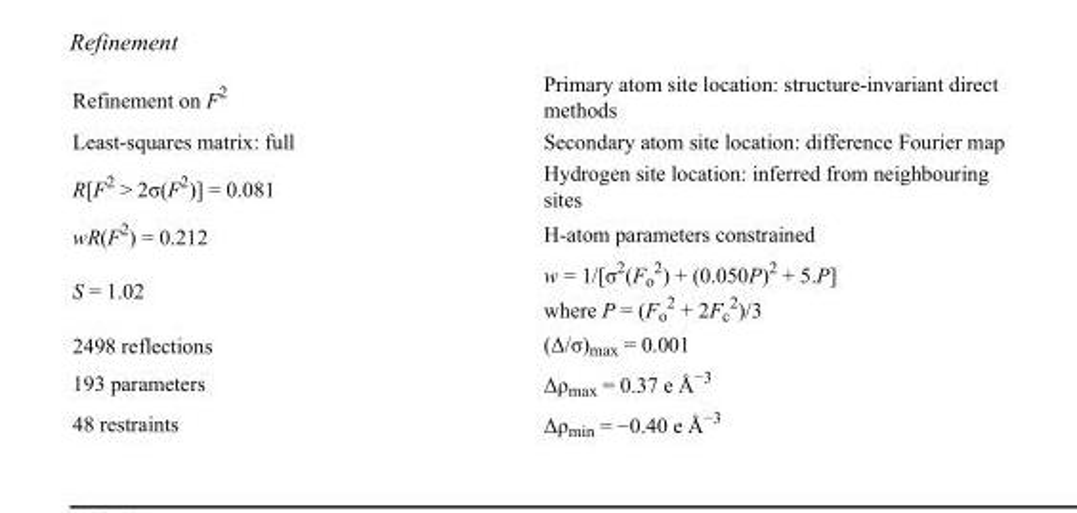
<table><tbody><tr><td>Refinement on F<sup>2</sup></td><td>Primary atom site location: structure-invariant direct methods</td></tr><tr><td>Least-squares matrix: full</td><td>Secondary atom site location: difference Fourier map</td></tr><tr><td>R[F<sup>2</sup> &gt; 2σ(F<sup>2</sup>)] = 0.081</td><td>Hydrogen site location: inferred from neighbouring sites</td></tr><tr><td>wR(F<sup>2</sup>) = 0.212</td><td>H-atom parameters constrained</td></tr><tr><td>S = 1.02</td><td>w = 1/[σ<sup>2</sup>(F<sub>o</sub> <sup>2</sup>) + (0.050P)<sup>2</sup> + 5.P] where P = (F<sub>o</sub> <sup>2</sup> + 2F<sub>c</sub> <sup>2</sup>)/3</td></tr><tr><td>2498 reflections</td><td>(Δ/σ)<sub>max</sub> = 0.001</td></tr><tr><td>193 parameters</td><td>Δρ<sub>max</sub> = 0.37 e Å<sup>−3</sup></td></tr><tr><td>48 restraints</td><td>Δρ<sub>min</sub> = −0.40 e Å<sup>−3</sup></td></tr></tbody></table>